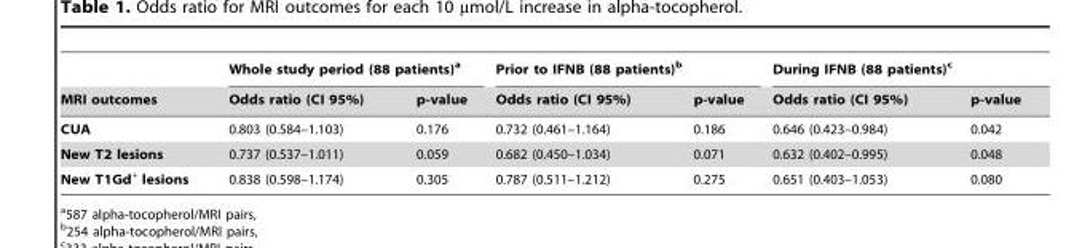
<table><thead><tr><td rowspan="2">MRI outcomes</td><td colspan="2">Whole study period (88 patients)<sup>a</sup></td><td colspan="2">Prior to IFNB (88 patients)<sup>b</sup></td><td colspan="2">During IFNB (88 patients)<sup>c</sup></td></tr><tr><td>Odds ratio (CI 95%)</td><td>p-value</td><td>Odds ratio (CI 95%)</td><td>p-value</td><td>Odds ratio (CI 95%)</td><td>p-value</td></tr></thead><tbody><tr><td>CUA</td><td>0.803 (0.584–1.103)</td><td>0.176</td><td>0.732 (0.461–1.164)</td><td>0.186</td><td>0.646 (0.423–0.984)</td><td>0.042</td></tr><tr><td>New T2 lesions</td><td>0.737 (0.537–1.011)</td><td>0.059</td><td>0.682 (0.450–1.034)</td><td>0.071</td><td>0.632 (0.402–0.995)</td><td>0.048</td></tr><tr><td>New T1Gd<sup>+</sup> lesions</td><td>0.838 (0.598–1.174)</td><td>0.305</td><td>0.787 (0.511–1.212)</td><td>0.275</td><td>0.651 (0.403–1.053)</td><td>0.080</td></tr></tbody></table>